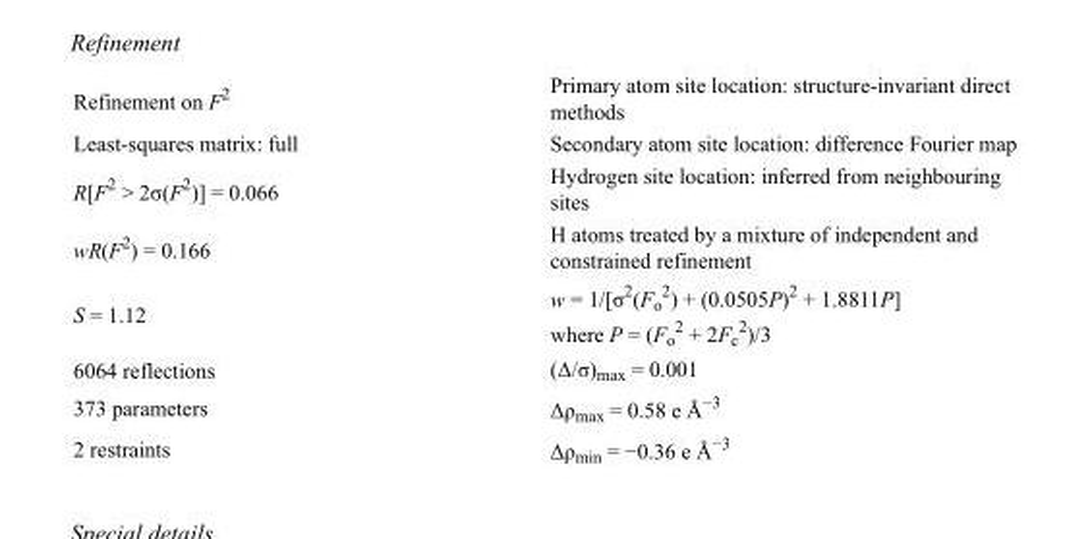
<table><tbody><tr><td>Refinement on F<sup>2</sup></td><td>Primary atom site location: structure-invariant direct methods</td></tr><tr><td>Least-squares matrix: full</td><td>Secondary atom site location: difference Fourier map</td></tr><tr><td>R[F<sup>2</sup> &gt; 2σ(F<sup>2</sup>)] = 0.066</td><td>Hydrogen site location: inferred from neighbouring sites</td></tr><tr><td>wR(F<sup>2</sup>) = 0.166</td><td>H atoms treated by a mixture of independent and constrained refinement</td></tr><tr><td>S = 1.12</td><td>w = 1/[σ<sup>2</sup>(F<sub>o</sub> <sup>2</sup>) + (0.0505P)<sup>2</sup> + 1.8811P] where P = (F<sub>o</sub> <sup>2</sup> + 2F<sub>c</sub> <sup>2</sup>)/3</td></tr><tr><td>6064 reflections</td><td>(Δ/σ)<sub>max</sub> = 0.001</td></tr><tr><td>373 parameters</td><td>Δρ<sub>max</sub> = 0.58 e Å<sup>−3</sup></td></tr><tr><td>2 restraints</td><td>Δρ<sub>min</sub> = −0.36 e Å<sup>−3</sup></td></tr></tbody></table>